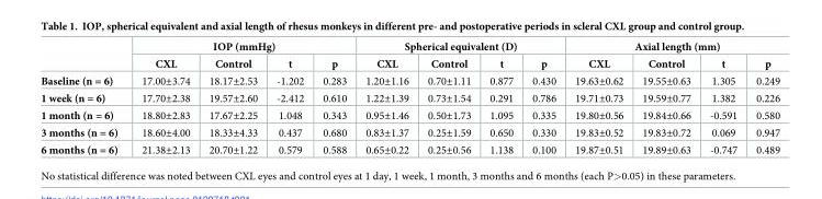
<table><thead><tr><td rowspan="2"></td><td colspan="4">IOP (mmHg)</td><td colspan="4">Spherical equivalent (D)</td><td colspan="4">Axial length (mm)</td></tr><tr><td>CXL</td><td>Control</td><td>t</td><td>p</td><td>CXL</td><td>Control</td><td>t</td><td>p</td><td>CXL</td><td>Control</td><td>t</td><td>p</td></tr></thead><tbody><tr><td>Baseline (n = 6)</td><td>17.00±3.74</td><td>18.17±2.53</td><td>-1.202</td><td>0.283</td><td>1.20±1.16</td><td>0.70±1.11</td><td>0.877</td><td>0.430</td><td>19.63±0.62</td><td>19.55±0.63</td><td>1.305</td><td>0.249</td></tr><tr><td>1 week (n = 6)</td><td>17.70±2.38</td><td>19.57±2.60</td><td>-2.412</td><td>0.610</td><td>1.22±1.39</td><td>0.73±1.54</td><td>0.291</td><td>0.786</td><td>19.71±0.73</td><td>19.59±0.77</td><td>1.382</td><td>0.226</td></tr><tr><td>1 month (n = 6)</td><td>18.80±2.83</td><td>17.67±2.25</td><td>1.048</td><td>0.343</td><td>0.95±1.46</td><td>0.50±1.73</td><td>1.095</td><td>0.335</td><td>19.80±0.56</td><td>19.84±0.66</td><td>-0.591</td><td>0.580</td></tr><tr><td>3 months (n = 6)</td><td>18.60±4.00</td><td>18.33±4.33</td><td>0.437</td><td>0.680</td><td>0.83±1.37</td><td>0.25±1.59</td><td>0.650</td><td>0.330</td><td>19.83±0.52</td><td>19.83±0.72</td><td>0.069</td><td>0.947</td></tr><tr><td>6 months (n = 6)</td><td>21.38±2.13</td><td>20.70±1.22</td><td>0.579</td><td>0.588</td><td>0.65±0.22</td><td>0.25±0.56</td><td>1.138</td><td>0.100</td><td>19.87±0.51</td><td>19.89±0.63</td><td>-0.747</td><td>0.489</td></tr></tbody></table>